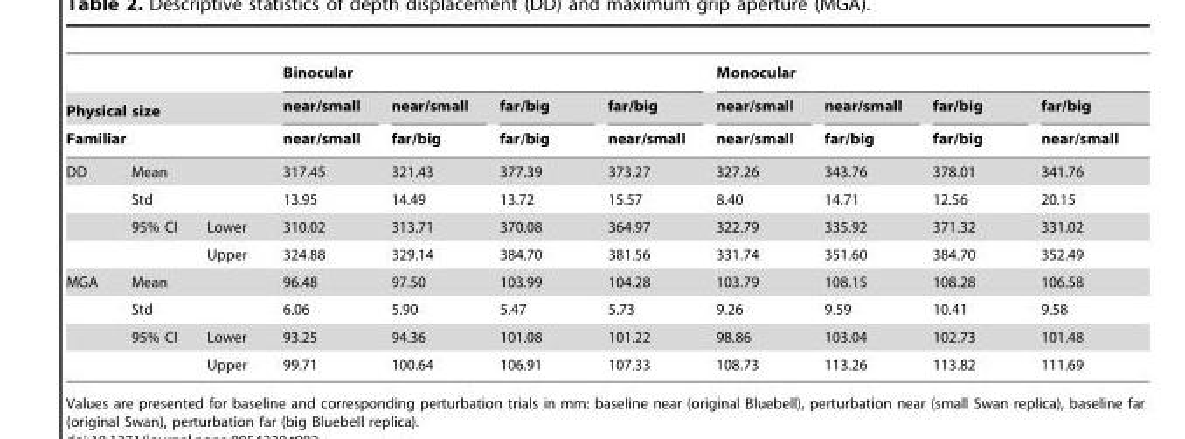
<table><thead><tr><td></td><td></td><td></td><td colspan="4">Binocular</td><td colspan="4">Monocular</td></tr><tr><td rowspan="2" colspan="3">Physical size Familiar</td><td rowspan="2">near/small near/small</td><td rowspan="2">near/small far/big</td><td rowspan="2">far/big far/big</td><td rowspan="2">far/big near/small</td><td rowspan="2">near/small near/small</td><td rowspan="2">near/small far/big</td><td rowspan="2">far/big far/big</td><td rowspan="2">far/big near/small</td></tr><tr></tr></thead><tbody><tr><td rowspan="4">DD</td><td colspan="2">Mean</td><td>317.45</td><td>321.43</td><td>377.39</td><td>373.27</td><td>327.26</td><td>343.76</td><td>378.01</td><td>341.76</td></tr><tr><td colspan="2">Std</td><td>13.95</td><td>14.49</td><td>13.72</td><td>15.57</td><td>8.40</td><td>14.71</td><td>12.56</td><td>20.15</td></tr><tr><td>95% CI</td><td>Lower</td><td>310.02</td><td>313.71</td><td>370.08</td><td>364.97</td><td>322.79</td><td>335.92</td><td>371.32</td><td>331.02</td></tr><tr><td></td><td>Upper</td><td>324.88</td><td>329.14</td><td>384.70</td><td>381.56</td><td>331.74</td><td>351.60</td><td>384.70</td><td>352.49</td></tr><tr><td rowspan="4">MGA</td><td colspan="2">Mean</td><td>96.48</td><td>97.50</td><td>103.99</td><td>104.28</td><td>103.79</td><td>108.15</td><td>108.28</td><td>106.58</td></tr><tr><td colspan="2">Std</td><td>6.06</td><td>5.90</td><td>5.47</td><td>5.73</td><td>9.26</td><td>9.59</td><td>10.41</td><td>9.58</td></tr><tr><td>95% CI</td><td>Lower</td><td>93.25</td><td>94.36</td><td>101.08</td><td>101.22</td><td>98.86</td><td>103.04</td><td>102.73</td><td>101.48</td></tr><tr><td></td><td>Upper</td><td>99.71</td><td>100.64</td><td>106.91</td><td>107.33</td><td>108.73</td><td>113.26</td><td>113.82</td><td>111.69</td></tr></tbody></table>